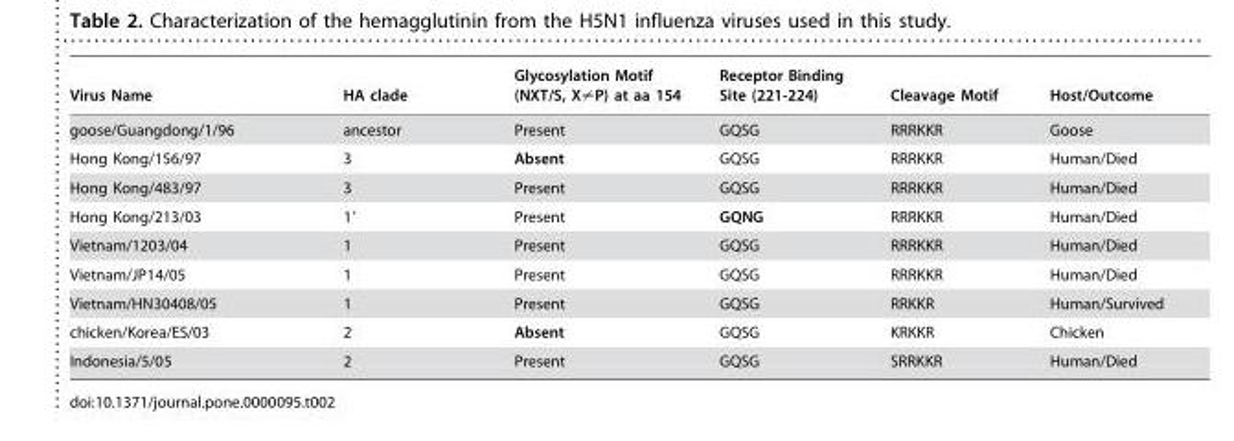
<table><thead><tr><td>Virus Name</td><td>HA clade</td><td>Glycosylation Motif (NXT/S, X≠P) at aa 154</td><td>Receptor Binding Site (221-224)</td><td>Cleavage Motif</td><td>Host/Outcome</td></tr></thead><tbody><tr><td>goose/Guangdong/1/96</td><td>ancestor</td><td>Present</td><td>GQSG</td><td>RRRKKR</td><td>Goose</td></tr><tr><td>Hong Kong/156/97</td><td>3</td><td>Absent</td><td>GQSG</td><td>RRRKKR</td><td>Human/Died</td></tr><tr><td>Hong Kong/483/97</td><td>3</td><td>Present</td><td>GQSG</td><td>RRRKKR</td><td>Human/Died</td></tr><tr><td>Hong Kong/213/03</td><td>1′</td><td>Present</td><td>GQNG</td><td>RRRKKR</td><td>Human/Died</td></tr><tr><td>Vietnam/1203/04</td><td>1</td><td>Present</td><td>GQSG</td><td>RRRKKR</td><td>Human/Died</td></tr><tr><td>Vietnam/JP14/05</td><td>1</td><td>Present</td><td>GQSG</td><td>RRRKKR</td><td>Human/Died</td></tr><tr><td>Vietnam/HN30408/05</td><td>1</td><td>Present</td><td>GQSG</td><td>RRKKR</td><td>Human/Survived</td></tr><tr><td>chicken/Korea/ES/03</td><td>2</td><td>Absent</td><td>GQSG</td><td>KRKKR</td><td>Chicken</td></tr><tr><td>Indonesia/5/05</td><td>2</td><td>Present</td><td>GQSG</td><td>SRRKKR</td><td>Human/Died</td></tr></tbody></table>